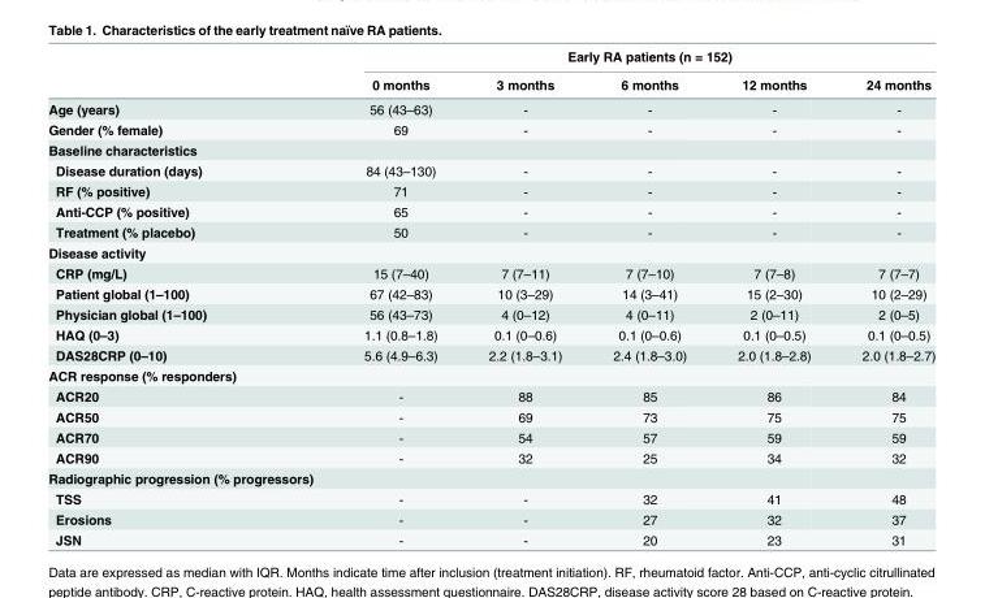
<table><thead><tr><td rowspan="2"></td><td colspan="5">Early RA patients (n = 152)</td></tr><tr><td>0 months</td><td>3 months</td><td>6 months</td><td>12 months</td><td>24 months</td></tr></thead><tbody><tr><td>Age (years)</td><td>56 (43–63)</td><td>-</td><td>-</td><td>-</td><td>-</td></tr><tr><td>Gender (% female)</td><td>69</td><td>-</td><td>-</td><td>-</td><td>-</td></tr><tr><td colspan="6">Baseline characteristics</td></tr><tr><td>Disease duration (days)</td><td>84 (43–130)</td><td>-</td><td>-</td><td>-</td><td>-</td></tr><tr><td>RF (% positive)</td><td>71</td><td>-</td><td>-</td><td>-</td><td>-</td></tr><tr><td>Anti-CCP (% positive)</td><td>65</td><td>-</td><td>-</td><td>-</td><td>-</td></tr><tr><td>Treatment (% placebo)</td><td>50</td><td>-</td><td>-</td><td>-</td><td>-</td></tr><tr><td colspan="6">Disease activity</td></tr><tr><td>CRP (mg/L)</td><td>15 (7–40)</td><td>7 (7–11)</td><td>7 (7–10)</td><td>7 (7–8)</td><td>7 (7–7)</td></tr><tr><td>Patient global (1–100)</td><td>67 (42–83)</td><td>10 (3–29)</td><td>14 (3–41)</td><td>15 (2–30)</td><td>10 (2–29)</td></tr><tr><td>Physician global (1–100)</td><td>56 (43–73)</td><td>4 (0–12)</td><td>4 (0–11)</td><td>2 (0–11)</td><td>2 (0–5)</td></tr><tr><td>HAQ (0–3)</td><td>1.1 (0.8–1.8)</td><td>0.1 (0–0.6)</td><td>0.1 (0–0.6)</td><td>0.1 (0–0.5)</td><td>0.1 (0–0.5)</td></tr><tr><td>DAS28CRP (0–10)</td><td>5.6 (4.9–6.3)</td><td>2.2 (1.8–3.1)</td><td>2.4 (1.8–3.0)</td><td>2.0 (1.8–2.8)</td><td>2.0 (1.8–2.7)</td></tr><tr><td colspan="6">ACR response (% responders)</td></tr><tr><td>ACR20</td><td>-</td><td>88</td><td>85</td><td>86</td><td>84</td></tr><tr><td>ACR50</td><td>-</td><td>69</td><td>73</td><td>75</td><td>75</td></tr><tr><td>ACR70</td><td>-</td><td>54</td><td>57</td><td>59</td><td>59</td></tr><tr><td>ACR90</td><td>-</td><td>32</td><td>25</td><td>34</td><td>32</td></tr><tr><td colspan="6">Radiographic progression (% progressors)</td></tr><tr><td>TSS</td><td>-</td><td>-</td><td>32</td><td>41</td><td>48</td></tr><tr><td>Erosions</td><td>-</td><td>-</td><td>27</td><td>32</td><td>37</td></tr><tr><td>JSN</td><td>-</td><td>-</td><td>20</td><td>23</td><td>31</td></tr></tbody></table>